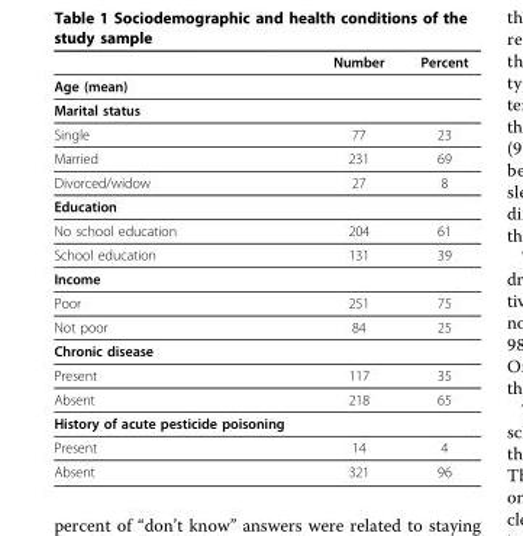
<table><thead><tr><td></td><td>Number</td><td>Percent</td></tr></thead><tbody><tr><td colspan="3">Age (mean)</td></tr><tr><td colspan="3">Marital status</td></tr><tr><td>Single</td><td>77</td><td>23</td></tr><tr><td>Married</td><td>231</td><td>69</td></tr><tr><td>Divorced/widow</td><td>27</td><td>8</td></tr><tr><td colspan="3">Education</td></tr><tr><td>No school education</td><td>204</td><td>61</td></tr><tr><td>School education</td><td>131</td><td>39</td></tr><tr><td colspan="3">Income</td></tr><tr><td>Poor</td><td>251</td><td>75</td></tr><tr><td>Not poor</td><td>84</td><td>25</td></tr><tr><td colspan="3">Chronic disease</td></tr><tr><td>Present</td><td>117</td><td>35</td></tr><tr><td>Absent</td><td>218</td><td>65</td></tr><tr><td colspan="3">History of acute pesticide poisoning</td></tr><tr><td>Present</td><td>14</td><td>4</td></tr><tr><td>Absent</td><td>321</td><td>96</td></tr></tbody></table>